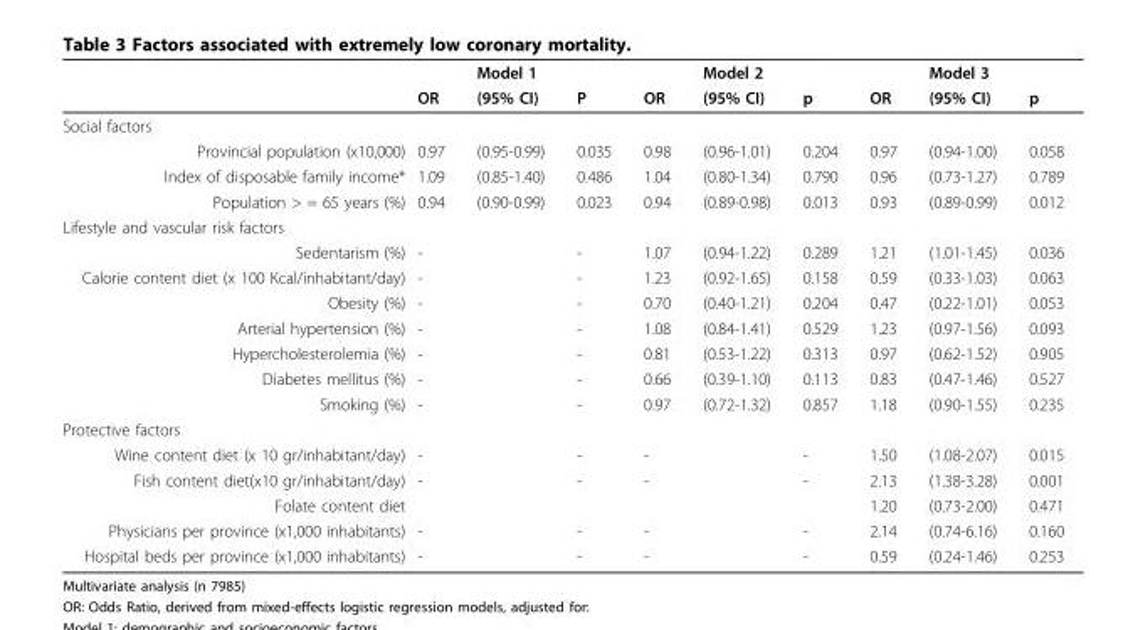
<table><thead><tr><td rowspan="2"></td><td rowspan="2">OR</td><td rowspan="2">Model 1 (95% CI)</td><td rowspan="2">P</td><td rowspan="2">OR</td><td rowspan="2">Model 2 (95% CI)</td><td rowspan="2">p</td><td rowspan="2">OR</td><td rowspan="2">Model 3 (95% CI)</td><td rowspan="2">p</td></tr><tr></tr></thead><tbody><tr><td colspan="10">Social factors</td></tr><tr><td>Provincial population (x10,000)</td><td>0.97</td><td>(0.95-0.99)</td><td>0.035</td><td>0.98</td><td>(0.96-1.01)</td><td>0.204</td><td>0.97</td><td>(0.94-1.00)</td><td>0.058</td></tr><tr><td>Index of disposable family income*</td><td>1.09</td><td>(0.85-1.40)</td><td>0.486</td><td>1.04</td><td>(0.80-1.34)</td><td>0.790</td><td>0.96</td><td>(0.73-1.27)</td><td>0.789</td></tr><tr><td>Population &gt; = 65 years (%)</td><td>0.94</td><td>(0.90-0.99)</td><td>0.023</td><td>0.94</td><td>(0.89-0.98)</td><td>0.013</td><td>0.93</td><td>(0.89-0.99)</td><td>0.012</td></tr><tr><td colspan="10">Lifestyle and vascular risk factors</td></tr><tr><td>Sedentarism (%)</td><td>-</td><td></td><td>-</td><td>1.07</td><td>(0.94-1.22)</td><td>0.289</td><td>1.21</td><td>(1.01-1.45)</td><td>0.036</td></tr><tr><td>Calorie content diet (x 100 Kcal/inhabitant/day)</td><td>-</td><td></td><td>-</td><td>1.23</td><td>(0.92-1.65)</td><td>0.158</td><td>0.59</td><td>(0.33-1.03)</td><td>0.063</td></tr><tr><td>Obesity (%)</td><td>-</td><td></td><td>-</td><td>0.70</td><td>(0.40-1.21)</td><td>0.204</td><td>0.47</td><td>(0.22-1.01)</td><td>0.053</td></tr><tr><td>Arterial hypertension (%)</td><td>-</td><td></td><td>-</td><td>1.08</td><td>(0.84-1.41)</td><td>0.529</td><td>1.23</td><td>(0.97-1.56)</td><td>0.093</td></tr><tr><td>Hypercholesterolemia (%)</td><td>-</td><td></td><td>-</td><td>0.81</td><td>(0.53-1.22)</td><td>0.313</td><td>0.97</td><td>(0.62-1.52)</td><td>0.905</td></tr><tr><td>Diabetes mellitus (%)</td><td>-</td><td></td><td>-</td><td>0.66</td><td>(0.39-1.10)</td><td>0.113</td><td>0.83</td><td>(0.47-1.46)</td><td>0.527</td></tr><tr><td>Smoking (%)</td><td>-</td><td></td><td>-</td><td>0.97</td><td>(0.72-1.32)</td><td>0.857</td><td>1.18</td><td>(0.90-1.55)</td><td>0.235</td></tr><tr><td colspan="10">Protective factors</td></tr><tr><td>Wine content diet (x 10 gr/inhabitant/day)</td><td>-</td><td></td><td>-</td><td>-</td><td></td><td>-</td><td>1.50</td><td>(1.08-2.07)</td><td>0.015</td></tr><tr><td>Fish content diet(x10 gr/inhabitant/day)</td><td>-</td><td></td><td>-</td><td>-</td><td></td><td>-</td><td>2.13</td><td>(1.38-3.28)</td><td>0.001</td></tr><tr><td>Folate content diet</td><td></td><td></td><td></td><td></td><td></td><td></td><td>1.20</td><td>(0.73-2.00)</td><td>0.471</td></tr><tr><td>Physicians per province (x1,000 inhabitants)</td><td>-</td><td></td><td>-</td><td>-</td><td></td><td>-</td><td>2.14</td><td>(0.74-6.16)</td><td>0.160</td></tr><tr><td>Hospital beds per province (x1,000 inhabitants)</td><td>-</td><td></td><td>-</td><td>-</td><td></td><td>-</td><td>0.59</td><td>(0.24-1.46)</td><td>0.253</td></tr></tbody></table>